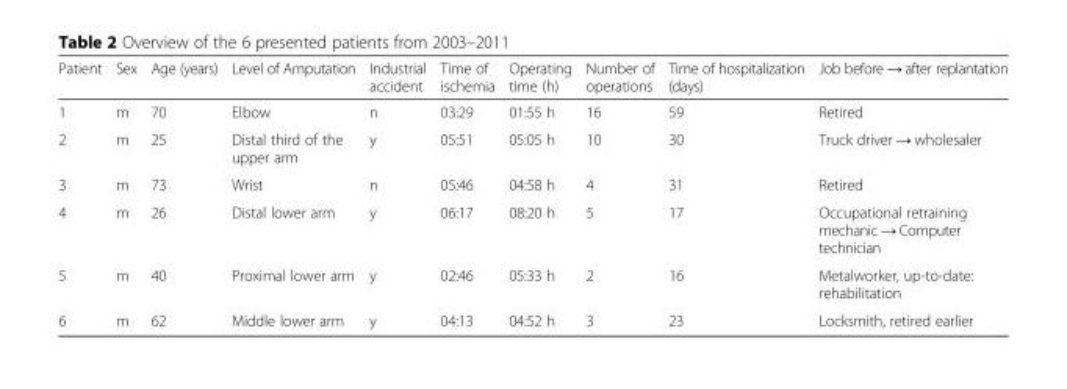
<table><thead><tr><td>Patient</td><td>Sex</td><td>Age (years)</td><td>Level of Amputation</td><td>Industrial accident</td><td>Time of ischemia</td><td>Operating time (h)</td><td>Number of operations</td><td>Time of hospitalization (days)</td><td>Job before → after replantation</td></tr></thead><tbody><tr><td>1</td><td>m</td><td>70</td><td>Elbow</td><td>n</td><td>03:29</td><td>01:55 h</td><td>16</td><td>59</td><td>Retired</td></tr><tr><td>2</td><td>m</td><td>25</td><td>Distal third of the upper arm</td><td>y</td><td>05:51</td><td>05:05 h</td><td>10</td><td>30</td><td>Truck driver → wholesaler</td></tr><tr><td>3</td><td>m</td><td>73</td><td>Wrist</td><td>n</td><td>05:46</td><td>04:58 h</td><td>4</td><td>31</td><td>Retired</td></tr><tr><td>4</td><td>m</td><td>26</td><td>Distal lower arm</td><td>y</td><td>06:17</td><td>08:20 h</td><td>5</td><td>17</td><td>Occupational retraining mechanic → Computer technician</td></tr><tr><td>5</td><td>m</td><td>40</td><td>Proximal lower arm</td><td>y</td><td>02:46</td><td>05:33 h</td><td>2</td><td>16</td><td>Metalworker, up-to-date: rehabilitation</td></tr><tr><td>6</td><td>m</td><td>62</td><td>Middle lower arm</td><td>y</td><td>04:13</td><td>04:52 h</td><td>3</td><td>23</td><td>Locksmith, retired earlier</td></tr></tbody></table>